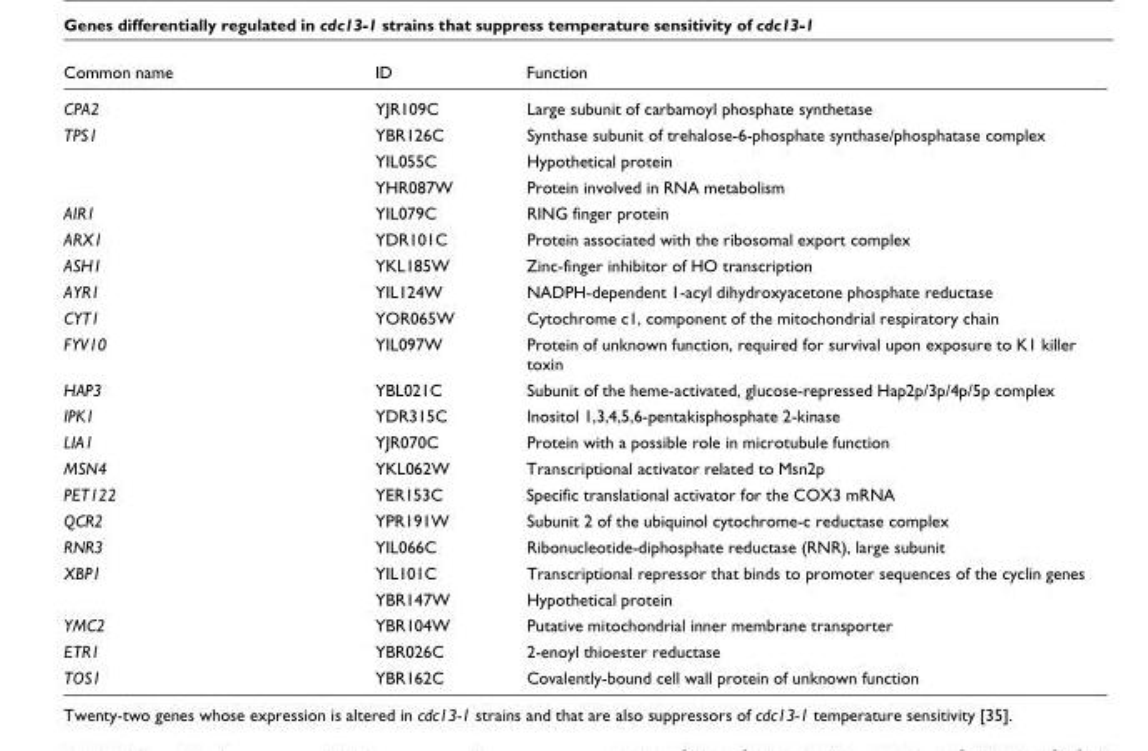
<table><thead><tr><td>Common name</td><td>ID</td><td>Function</td></tr></thead><tbody><tr><td>CPA2</td><td>YJR109C</td><td>Large subunit of carbamoyl phosphate synthetase</td></tr><tr><td rowspan="3">TPS1</td><td>YBR126C</td><td>Synthase subunit of trehalose-6-phosphate synthase/phosphatase complex</td></tr><tr><td>YIL055C</td><td>Hypothetical protein</td></tr><tr><td>YHR087W</td><td>Protein involved in RNA metabolism</td></tr><tr><td>AIR1</td><td>YIL079C</td><td>RING finger protein</td></tr><tr><td>ARX1</td><td>YDR101C</td><td>Protein associated with the ribosomal export complex</td></tr><tr><td>ASH1</td><td>YKL185W</td><td>Zinc-finger inhibitor of HO transcription</td></tr><tr><td>AYR1</td><td>YIL124W</td><td>NADPH-dependent 1-acyl dihydroxyacetone phosphate reductase</td></tr><tr><td>CYT1</td><td>YOR065W</td><td>Cytochrome c1, component of the mitochondrial respiratory chain</td></tr><tr><td>FYV10</td><td>YIL097W</td><td>Protein of unknown function, required for survival upon exposure to K1 killer toxin</td></tr><tr><td>HAP3</td><td>YBL021C</td><td>Subunit of the heme-activated, glucose-repressed Hap2p/3p/4p/5p complex</td></tr><tr><td>IPK1</td><td>YDR315C</td><td>Inositol 1,3,4,5,6-pentakisphosphate 2-kinase</td></tr><tr><td>LIA1</td><td>YJR070C</td><td>Protein with a possible role in microtubule function</td></tr><tr><td>MSN4</td><td>YKL062W</td><td>Transcriptional activator related to Msn2p</td></tr><tr><td>PET122</td><td>YER153C</td><td>Specific translational activator for the COX3 mRNA</td></tr><tr><td>QCR2</td><td>YPR191W</td><td>Subunit 2 of the ubiquinol cytochrome-c reductase complex</td></tr><tr><td>RNR3</td><td>YIL066C</td><td>Ribonucleotide-diphosphate reductase (RNR), large subunit</td></tr><tr><td rowspan="2">XBP1</td><td>YIL101C</td><td>Transcriptional repressor that binds to promoter sequences of the cyclin genes</td></tr><tr><td>YBR147W</td><td>Hypothetical protein</td></tr><tr><td>YMC2</td><td>YBR104W</td><td>Putative mitochondrial inner membrane transporter</td></tr><tr><td>ETR1</td><td>YBR026C</td><td>2-enoyl thioester reductase</td></tr><tr><td>TOS1</td><td>YBR162C</td><td>Covalently-bound cell wall protein of unknown function</td></tr></tbody></table>